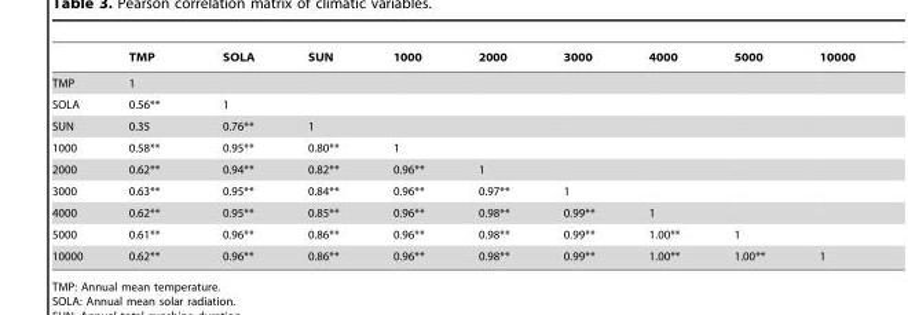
<table><thead><tr><td></td><td>TMP</td><td>SOLA</td><td>SUN</td><td>1000</td><td>2000</td><td>3000</td><td>4000</td><td>5000</td><td>10000</td></tr></thead><tbody><tr><td>TMP</td><td>1</td><td></td><td></td><td></td><td></td><td></td><td></td><td></td><td></td></tr><tr><td>SOLA</td><td>0.56**</td><td>1</td><td></td><td></td><td></td><td></td><td></td><td></td><td></td></tr><tr><td>SUN</td><td>0.35</td><td>0.76**</td><td>1</td><td></td><td></td><td></td><td></td><td></td><td></td></tr><tr><td>1000</td><td>0.58**</td><td>0.95**</td><td>0.80**</td><td>1</td><td></td><td></td><td></td><td></td><td></td></tr><tr><td>2000</td><td>0.62**</td><td>0.94**</td><td>0.82**</td><td>0.96**</td><td>1</td><td></td><td></td><td></td><td></td></tr><tr><td>3000</td><td>0.63**</td><td>0.95**</td><td>0.84**</td><td>0.96**</td><td>0.97**</td><td>1</td><td></td><td></td><td></td></tr><tr><td>4000</td><td>0.62**</td><td>0.95**</td><td>0.85**</td><td>0.96**</td><td>0.98**</td><td>0.99**</td><td>1</td><td></td><td></td></tr><tr><td>5000</td><td>0.61**</td><td>0.96**</td><td>0.86**</td><td>0.96**</td><td>0.98**</td><td>0.99**</td><td>1.00**</td><td>1</td><td></td></tr><tr><td>10000</td><td>0.62**</td><td>0.96**</td><td>0.86**</td><td>0.96**</td><td>0.98**</td><td>0.99**</td><td>1.00**</td><td>1.00**</td><td>1</td></tr></tbody></table>